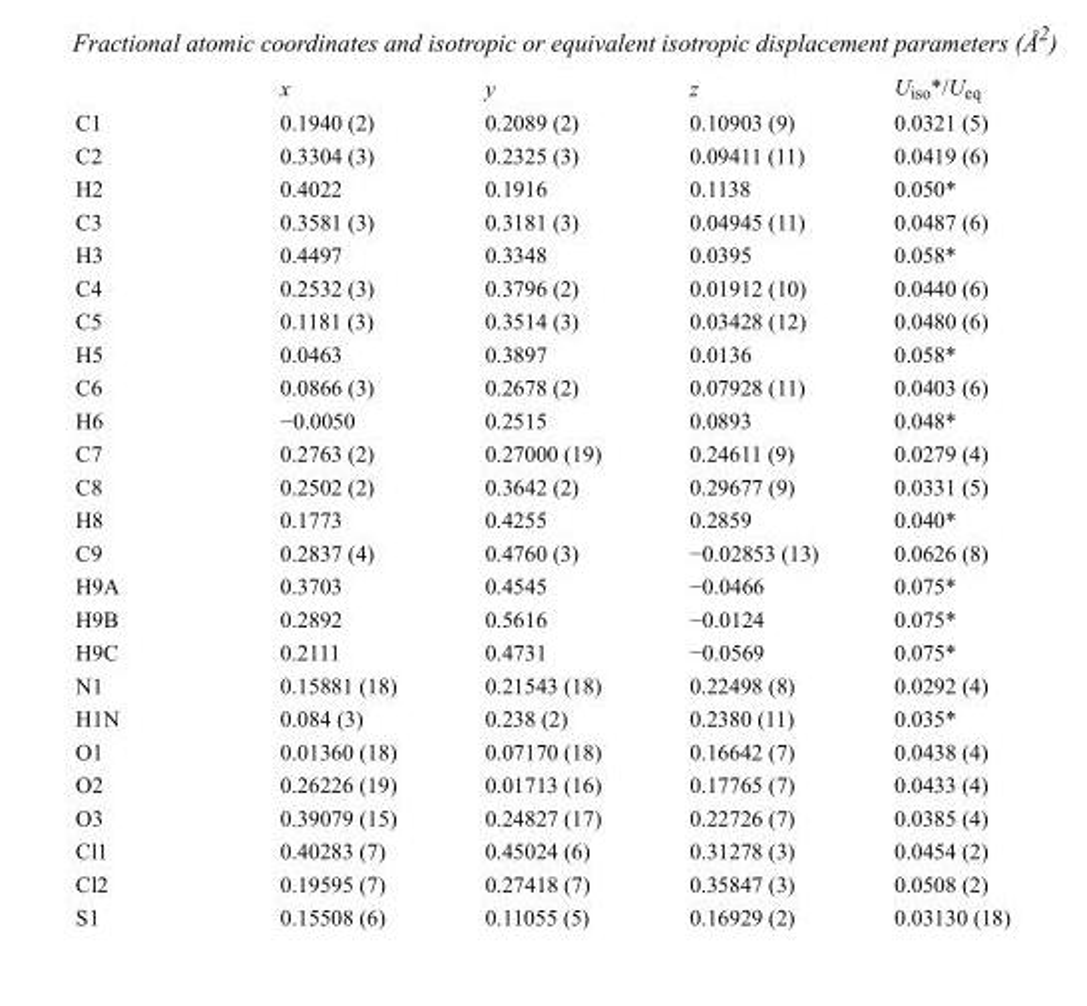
<table><thead><tr><td></td><td>x</td><td>y</td><td>z</td><td>U<sub>iso</sub>*/U<sub>eq</sub></td></tr></thead><tbody><tr><td>C1</td><td>0.1940 (2)</td><td>0.2089 (2)</td><td>0.10903 (9)</td><td>0.0321 (5)</td></tr><tr><td>C2</td><td>0.3304 (3)</td><td>0.2325 (3)</td><td>0.09411 (11)</td><td>0.0419 (6)</td></tr><tr><td>H2</td><td>0.4022</td><td>0.1916</td><td>0.1138</td><td>0.050*</td></tr><tr><td>C3</td><td>0.3581 (3)</td><td>0.3181 (3)</td><td>0.04945 (11)</td><td>0.0487 (6)</td></tr><tr><td>H3</td><td>0.4497</td><td>0.3348</td><td>0.0395</td><td>0.058*</td></tr><tr><td>C4</td><td>0.2532 (3)</td><td>0.3796 (2)</td><td>0.01912 (10)</td><td>0.0440 (6)</td></tr><tr><td>C5</td><td>0.1181 (3)</td><td>0.3514 (3)</td><td>0.03428 (12)</td><td>0.0480 (6)</td></tr><tr><td>H5</td><td>0.0463</td><td>0.3897</td><td>0.0136</td><td>0.058*</td></tr><tr><td>C6</td><td>0.0866 (3)</td><td>0.2678 (2)</td><td>0.07928 (11)</td><td>0.0403 (6)</td></tr><tr><td>H6</td><td>−0.0050</td><td>0.2515</td><td>0.0893</td><td>0.048*</td></tr><tr><td>C7</td><td>0.2763 (2)</td><td>0.27000 (19)</td><td>0.24611 (9)</td><td>0.0279 (4)</td></tr><tr><td>C8</td><td>0.2502 (2)</td><td>0.3642 (2)</td><td>0.29677 (9)</td><td>0.0331 (5)</td></tr><tr><td>H8</td><td>0.1773</td><td>0.4255</td><td>0.2859</td><td>0.040*</td></tr><tr><td>C9</td><td>0.2837 (4)</td><td>0.4760 (3)</td><td>−0.02853 (13)</td><td>0.0626 (8)</td></tr><tr><td>H9A</td><td>0.3703</td><td>0.4545</td><td>−0.0466</td><td>0.075*</td></tr><tr><td>H9B</td><td>0.2892</td><td>0.5616</td><td>−0.0124</td><td>0.075*</td></tr><tr><td>H9C</td><td>0.2111</td><td>0.4731</td><td>−0.0569</td><td>0.075*</td></tr><tr><td>N1</td><td>0.15881 (18)</td><td>0.21543 (18)</td><td>0.22498 (8)</td><td>0.0292 (4)</td></tr><tr><td>H1N</td><td>0.084 (3)</td><td>0.238 (2)</td><td>0.2380 (11)</td><td>0.035*</td></tr><tr><td>O1</td><td>0.01360 (18)</td><td>0.07170 (18)</td><td>0.16642 (7)</td><td>0.0438 (4)</td></tr><tr><td>O2</td><td>0.26226 (19)</td><td>0.01713 (16)</td><td>0.17765 (7)</td><td>0.0433 (4)</td></tr><tr><td>O3</td><td>0.39079 (15)</td><td>0.24827 (17)</td><td>0.22726 (7)</td><td>0.0385 (4)</td></tr><tr><td>Cl1</td><td>0.40283 (7)</td><td>0.45024 (6)</td><td>0.31278 (3)</td><td>0.0454 (2)</td></tr><tr><td>Cl2</td><td>0.19595 (7)</td><td>0.27418 (7)</td><td>0.35847 (3)</td><td>0.0508 (2)</td></tr><tr><td>S1</td><td>0.15508 (6)</td><td>0.11055 (5)</td><td>0.16929 (2)</td><td>0.03130 (18)</td></tr></tbody></table>